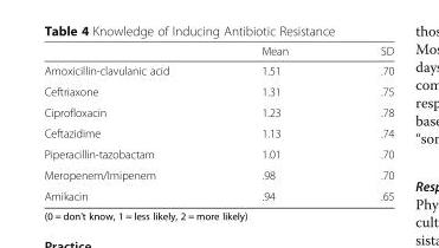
<table><thead><tr><td></td><td>Mean</td><td>SD</td></tr></thead><tbody><tr><td>Amoxicillin-clavulanic acid</td><td>1.51</td><td>.70</td></tr><tr><td>Ceftriaxone</td><td>1.31</td><td>.75</td></tr><tr><td>Ciprofloxacin</td><td>1.23</td><td>.78</td></tr><tr><td>Ceftazidime</td><td>1.13</td><td>.74</td></tr><tr><td>Piperacillin-tazobactam</td><td>1.01</td><td>.70</td></tr><tr><td>Meropenem/Imipenem</td><td>.98</td><td>.70</td></tr><tr><td>Amikacin</td><td>.94</td><td>.65</td></tr></tbody></table>